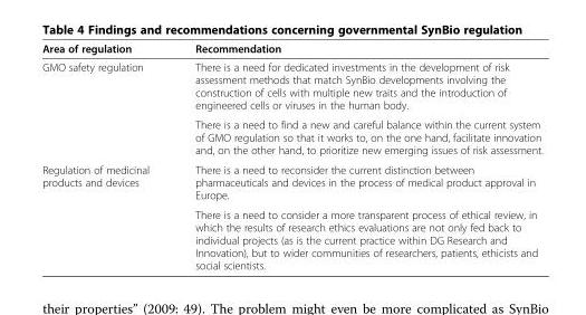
<table><thead><tr><td>Area of regulation</td><td>Recommendation</td></tr></thead><tbody><tr><td rowspan="2">GMO safety regulation</td><td>There is a need for dedicated investments in the development of risk assessment methods that match SynBio developments involving the construction of cells with multiple new traits and the introduction of engineered cells or viruses in the human body.</td></tr><tr><td>There is a need to find a new and careful balance within the current system of GMO regulation so that it works to, on the one hand, facilitate innovation and, on the other hand, to prioritize new emerging issues of risk assessment.</td></tr><tr><td rowspan="2">Regulation of medicinal products and devices</td><td>There is a need to reconsider the current distinction between pharmaceuticals and devices in the process of medical product approval in Europe.</td></tr><tr><td>There is a need to consider a more transparent process of ethical review, in which the results of research ethics evaluations are not only fed back to individual projects (as is the current practice within DG Research and Innovation), but to wider communities of researchers, patients, ethicists and social scientists.</td></tr></tbody></table>